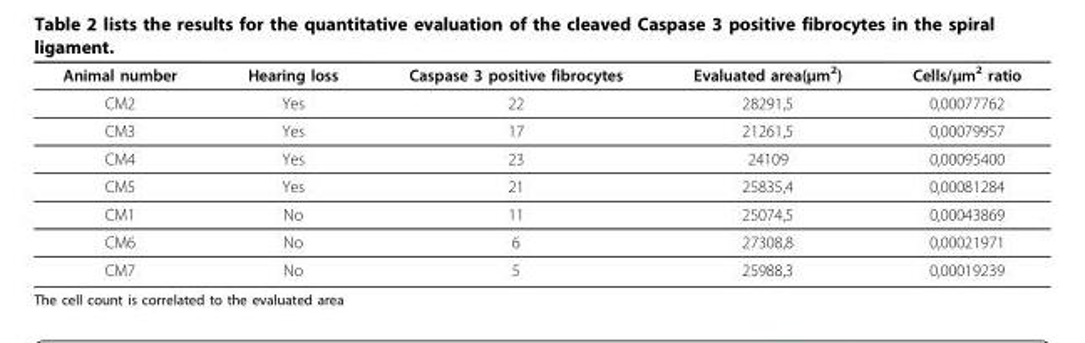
<table><thead><tr><td>Animal number</td><td>Hearing loss</td><td>Caspase 3 positive fibrocytes</td><td>Evaluated area(μm<sup>2</sup>)</td><td>Cells/μm<sup>2</sup> ratio</td></tr></thead><tbody><tr><td>CM2</td><td>Yes</td><td>22</td><td>28291,5</td><td>0,00077762</td></tr><tr><td>CM3</td><td>Yes</td><td>17</td><td>21261,5</td><td>0,00079957</td></tr><tr><td>CM4</td><td>Yes</td><td>23</td><td>24109</td><td>0,00095400</td></tr><tr><td>CM5</td><td>Yes</td><td>21</td><td>25835,4</td><td>0,00081284</td></tr><tr><td>CM1</td><td>No</td><td>11</td><td>25074,5</td><td>0,00043869</td></tr><tr><td>CM6</td><td>No</td><td>6</td><td>27308,8</td><td>0,00021971</td></tr><tr><td>CM7</td><td>No</td><td>5</td><td>25988,3</td><td>0,00019239</td></tr></tbody></table>